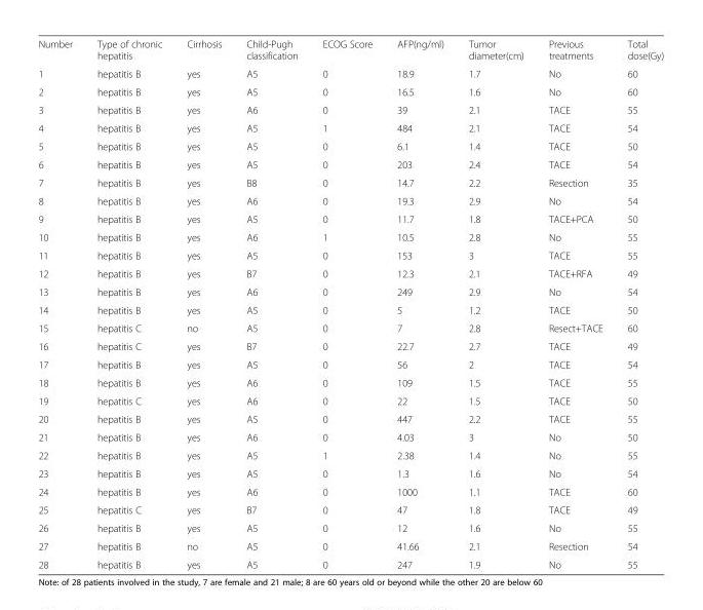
<table><tbody><tr><td>Number</td><td>Type of chronic hepatitis</td><td>Cirrhosis</td><td>Child-Pugh classification</td><td>ECOG Score</td><td>AFP(ng/ml)</td><td>Tumor diameter(cm)</td><td>Previous treatments</td><td>Total dose(Gy)</td></tr><tr><td>1</td><td>hepatitis B</td><td>yes</td><td>A5</td><td>0</td><td>18.9</td><td>1.7</td><td>No</td><td>60</td></tr><tr><td>2</td><td>hepatitis B</td><td>yes</td><td>A5</td><td>0</td><td>16.5</td><td>1.6</td><td>No</td><td>60</td></tr><tr><td>3</td><td>hepatitis B</td><td>yes</td><td>A6</td><td>0</td><td>39</td><td>2.1</td><td>TACE</td><td>55</td></tr><tr><td>4</td><td>hepatitis B</td><td>yes</td><td>A5</td><td>1</td><td>484</td><td>2.1</td><td>TACE</td><td>54</td></tr><tr><td>5</td><td>hepatitis B</td><td>yes</td><td>A5</td><td>0</td><td>6.1</td><td>1.4</td><td>TACE</td><td>50</td></tr><tr><td>6</td><td>hepatitis B</td><td>yes</td><td>A5</td><td>0</td><td>203</td><td>2.4</td><td>TACE</td><td>54</td></tr><tr><td>7</td><td>hepatitis B</td><td>yes</td><td>B8</td><td>0</td><td>14.7</td><td>2.2</td><td>Resection</td><td>35</td></tr><tr><td>8</td><td>hepatitis B</td><td>yes</td><td>A6</td><td>0</td><td>19.3</td><td>2.9</td><td>No</td><td>54</td></tr><tr><td>9</td><td>hepatitis B</td><td>yes</td><td>A5</td><td>0</td><td>11.7</td><td>1.8</td><td>TACE+PCA</td><td>50</td></tr><tr><td>10</td><td>hepatitis B</td><td>yes</td><td>A6</td><td>1</td><td>10.5</td><td>2.8</td><td>No</td><td>55</td></tr><tr><td>11</td><td>hepatitis B</td><td>yes</td><td>A5</td><td>0</td><td>153</td><td>3</td><td>TACE</td><td>55</td></tr><tr><td>12</td><td>hepatitis B</td><td>yes</td><td>B7</td><td>0</td><td>12.3</td><td>2.1</td><td>TACE+RFA</td><td>49</td></tr><tr><td>13</td><td>hepatitis B</td><td>yes</td><td>A6</td><td>0</td><td>249</td><td>2.9</td><td>No</td><td>54</td></tr><tr><td>14</td><td>hepatitis B</td><td>yes</td><td>A5</td><td>0</td><td>5</td><td>1.2</td><td>TACE</td><td>50</td></tr><tr><td>15</td><td>hepatitis C</td><td>no</td><td>A5</td><td>0</td><td>7</td><td>2.8</td><td>Resect+TACE</td><td>60</td></tr><tr><td>16</td><td>hepatitis C</td><td>yes</td><td>B7</td><td>0</td><td>22.7</td><td>2.7</td><td>TACE</td><td>49</td></tr><tr><td>17</td><td>hepatitis B</td><td>yes</td><td>A5</td><td>0</td><td>56</td><td>2</td><td>TACE</td><td>54</td></tr><tr><td>18</td><td>hepatitis B</td><td>yes</td><td>A6</td><td>0</td><td>109</td><td>1.5</td><td>TACE</td><td>55</td></tr><tr><td>19</td><td>hepatitis C</td><td>yes</td><td>A6</td><td>0</td><td>22</td><td>1.5</td><td>TACE</td><td>50</td></tr><tr><td>20</td><td>hepatitis B</td><td>yes</td><td>A5</td><td>0</td><td>447</td><td>2.2</td><td>TACE</td><td>55</td></tr><tr><td>21</td><td>hepatitis B</td><td>yes</td><td>A6</td><td>0</td><td>4.03</td><td>3</td><td>No</td><td>50</td></tr><tr><td>22</td><td>hepatitis B</td><td>yes</td><td>A5</td><td>1</td><td>2.38</td><td>1.4</td><td>No</td><td>55</td></tr><tr><td>23</td><td>hepatitis B</td><td>yes</td><td>A5</td><td>0</td><td>1.3</td><td>1.6</td><td>No</td><td>54</td></tr><tr><td>24</td><td>hepatitis B</td><td>yes</td><td>A6</td><td>0</td><td>1000</td><td>1.1</td><td>TACE</td><td>60</td></tr><tr><td>25</td><td>hepatitis C</td><td>yes</td><td>B7</td><td>0</td><td>47</td><td>1.8</td><td>TACE</td><td>49</td></tr><tr><td>26</td><td>hepatitis B</td><td>yes</td><td>A5</td><td>0</td><td>12</td><td>1.6</td><td>No</td><td>55</td></tr><tr><td>27</td><td>hepatitis B</td><td>no</td><td>A5</td><td>0</td><td>41.66</td><td>2.1</td><td>Resection</td><td>54</td></tr><tr><td>28</td><td>hepatitis B</td><td>yes</td><td>A5</td><td>0</td><td>247</td><td>1.9</td><td>No</td><td>55</td></tr></tbody></table>